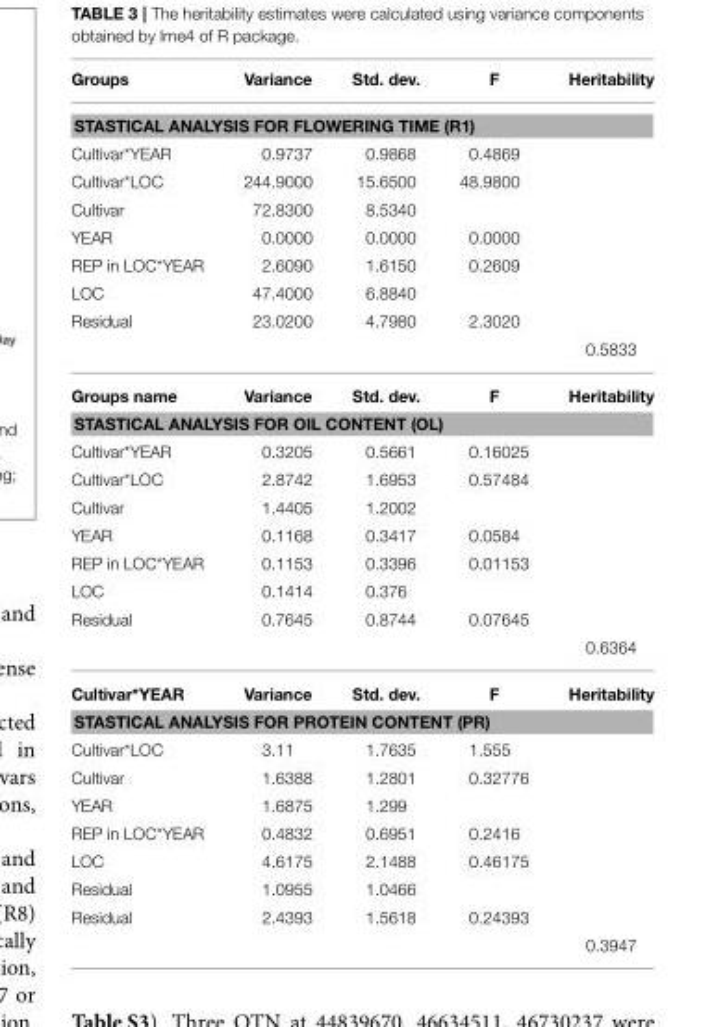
<table><thead><tr><td>Groups</td><td>Variance</td><td>Std. dev.</td><td>F</td><td>Heritability</td></tr></thead><tbody><tr><td colspan="5">STASTICAL ANALYSIS FOR FLOWERING TIME (R1)</td></tr><tr><td>Cultivar*YEAR</td><td>0.9737</td><td>0.9868</td><td>0.4869</td><td></td></tr><tr><td>Cultivar*LOC</td><td>244.9000</td><td>15.6500</td><td>48.9800</td><td></td></tr><tr><td>Cultivar</td><td>72.8300</td><td>8.5340</td><td></td><td></td></tr><tr><td>YEAR</td><td>0.0000</td><td>0.0000</td><td>0.0000</td><td></td></tr><tr><td>REP in LOC*YEAR</td><td>2.6090</td><td>1.6150</td><td>0.2609</td><td></td></tr><tr><td>LOC</td><td>47.4000</td><td>6.8840</td><td></td><td></td></tr><tr><td rowspan="2">Residual</td><td>23.0200</td><td>4.7980</td><td>2.3020</td><td></td></tr><tr><td></td><td></td><td></td><td>0.5833</td></tr><tr><td>Groups name</td><td>Variance</td><td>Std. dev.</td><td>F</td><td>Heritability</td></tr><tr><td colspan="5">STASTICAL ANALYSIS FOR OIL CONTENT (OL)</td></tr><tr><td>Cultivar*YEAR</td><td>0.3205</td><td>0.5661</td><td>0.16025</td><td></td></tr><tr><td>Cultivar*LOC</td><td>2.8742</td><td>1.6953</td><td>0.57484</td><td></td></tr><tr><td>Cultivar</td><td>1.4405</td><td>1.2002</td><td></td><td></td></tr><tr><td>YEAR</td><td>0.1168</td><td>0.3417</td><td>0.0584</td><td></td></tr><tr><td>REP in LOC*YEAR</td><td>0.1153</td><td>0.3396</td><td>0.01153</td><td></td></tr><tr><td>LOC</td><td>0.1414</td><td>0.376</td><td></td><td></td></tr><tr><td rowspan="2">Residual</td><td>0.7645</td><td>0.8744</td><td>0.07645</td><td></td></tr><tr><td></td><td></td><td></td><td>0.6364</td></tr><tr><td>Cultivar*YEAR</td><td>Variance</td><td>Std. dev.</td><td>F</td><td>Heritability</td></tr><tr><td colspan="5">STASTICAL ANALYSIS FOR PROTEIN CONTENT (PR)</td></tr><tr><td>Cultivar*LOC</td><td>3.11</td><td>1.7635</td><td>1.555</td><td></td></tr><tr><td>Cultivar</td><td>1.6388</td><td>1.2801</td><td>0.32776</td><td></td></tr><tr><td>YEAR</td><td>1.6875</td><td>1.299</td><td></td><td></td></tr><tr><td>REP in LOC*YEAR</td><td>0.4832</td><td>0.6951</td><td>0.2416</td><td></td></tr><tr><td>LOC</td><td>4.6175</td><td>2.1488</td><td>0.46175</td><td></td></tr><tr><td>Residual</td><td>1.0955</td><td>1.0466</td><td></td><td></td></tr><tr><td rowspan="2">Residual</td><td>2.4393</td><td>1.5618</td><td>0.24393</td><td></td></tr><tr><td></td><td></td><td></td><td>0.3947</td></tr></tbody></table>